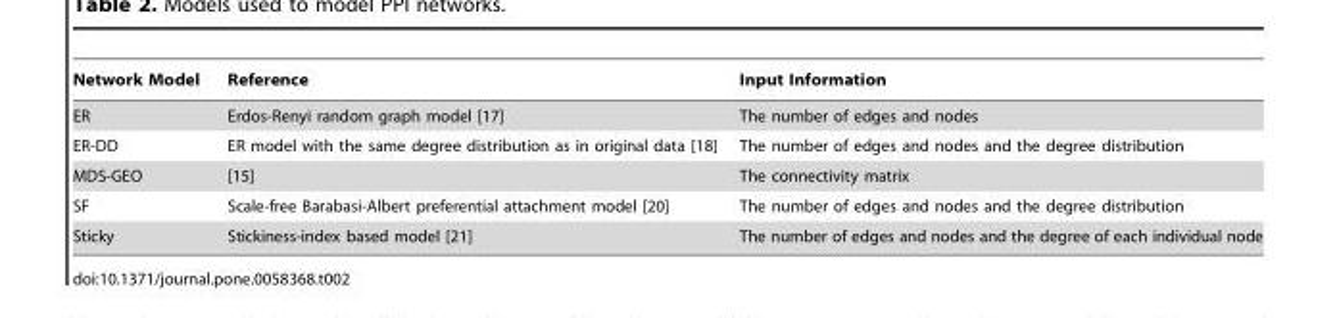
<table><thead><tr><td>Network Model</td><td>Reference</td><td>Input Information</td></tr></thead><tbody><tr><td>ER</td><td>Erdos-Renyi random graph model [17]</td><td>The number of edges and nodes</td></tr><tr><td>ER-DD</td><td>ER model with the same degree distribution as in original data [18]</td><td>The number of edges and nodes and the degree distribution</td></tr><tr><td>MDS-GEO</td><td>[15]</td><td>The connectivity matrix</td></tr><tr><td>SF</td><td>Scale-free Barabasi-Albert preferential attachment model [20]</td><td>The number of edges and nodes and the degree distribution</td></tr><tr><td>Sticky</td><td>Stickiness-index based model [21]</td><td>The number of edges and nodes and the degree of each individual node</td></tr></tbody></table>